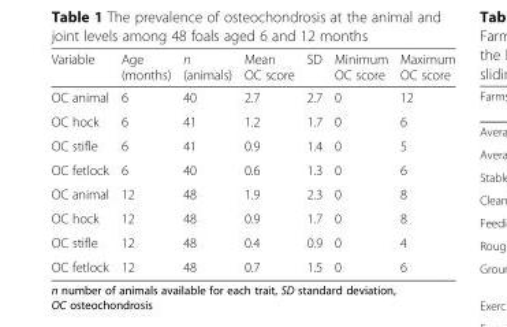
<table><thead><tr><td>Variable</td><td>Age (months)</td><td>n (animals)</td><td>Mean OC score</td><td>SD</td><td>Minimum OC score</td><td>Maximum OC score</td></tr></thead><tbody><tr><td>OC animal</td><td>6</td><td>40</td><td>2.7</td><td>2.7</td><td>0</td><td>12</td></tr><tr><td>OC hock</td><td>6</td><td>41</td><td>1.2</td><td>1.7</td><td>0</td><td>6</td></tr><tr><td>OC stifle</td><td>6</td><td>41</td><td>0.9</td><td>1.4</td><td>0</td><td>5</td></tr><tr><td>OC fetlock</td><td>6</td><td>40</td><td>0.6</td><td>1.3</td><td>0</td><td>6</td></tr><tr><td>OC animal</td><td>12</td><td>48</td><td>1.9</td><td>2.3</td><td>0</td><td>8</td></tr><tr><td>OC hock</td><td>12</td><td>48</td><td>0.9</td><td>1.7</td><td>0</td><td>8</td></tr><tr><td>OC stifle</td><td>12</td><td>48</td><td>0.4</td><td>0.9</td><td>0</td><td>4</td></tr><tr><td>OC fetlock</td><td>12</td><td>48</td><td>0.7</td><td>1.5</td><td>0</td><td>6</td></tr></tbody></table>